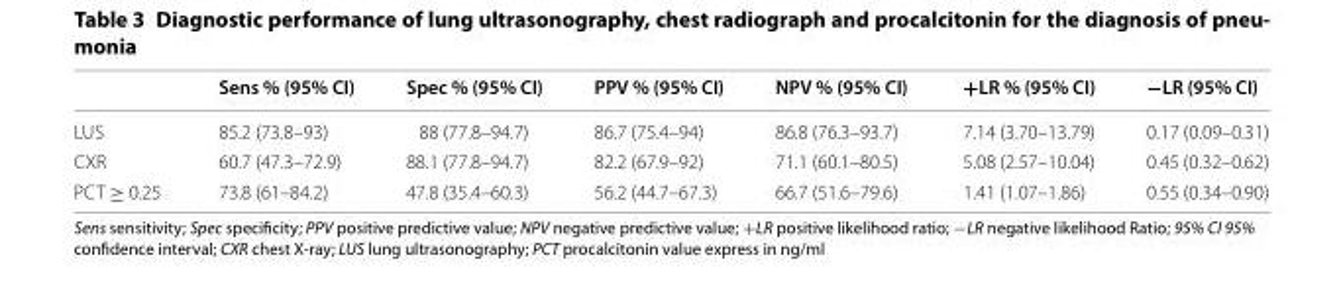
<table><thead><tr><td></td><td>Sens % (95% CI)</td><td>Spec % (95% CI)</td><td>PPV % (95% CI)</td><td>NPV % (95% CI)</td><td>+LR % (95% CI)</td><td>−LR (95% CI)</td></tr></thead><tbody><tr><td>LUS</td><td>85.2 (73.8–93)</td><td>88 (77.8–94.7)</td><td>86.7 (75.4–94)</td><td>86.8 (76.3–93.7)</td><td>7.14 (3.70–13.79)</td><td>0.17 (0.09–0.31)</td></tr><tr><td>CXR</td><td>60.7 (47.3–72.9)</td><td>88.1 (77.8–94.7)</td><td>82.2 (67.9–92)</td><td>71.1 (60.1–80.5)</td><td>5.08 (2.57–10.04)</td><td>0.45 (0.32–0.62)</td></tr><tr><td>PCT ≥ 0.25</td><td>73.8 (61–84.2)</td><td>47.8 (35.4–60.3)</td><td>56.2 (44.7–67.3)</td><td>66.7 (51.6–79.6)</td><td>1.41 (1.07–1.86)</td><td>0.55 (0.34–0.90)</td></tr></tbody></table>